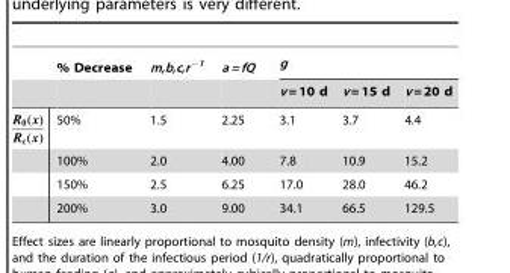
<table><thead><tr><td rowspan="2">% Decrease</td><td rowspan="2">m,b,c,r<sup>−1</sup></td><td rowspan="2">a = fQ</td><td colspan="3">g</td></tr><tr><td>v = 10 d</td><td>v = 15 d</td><td>v = 20 d</td></tr></thead><tbody><tr><td>50%</td><td>1.5</td><td>2.25</td><td>3.1</td><td>3.7</td><td>4.4</td></tr><tr><td>100%</td><td>2.0</td><td>4.00</td><td>7.8</td><td>10.9</td><td>15.2</td></tr><tr><td>150%</td><td>2.5</td><td>6.25</td><td>17.0</td><td>28.0</td><td>46.2</td></tr><tr><td>200%</td><td>3.0</td><td>9.00</td><td>34.1</td><td>66.5</td><td>129.5</td></tr></tbody></table>